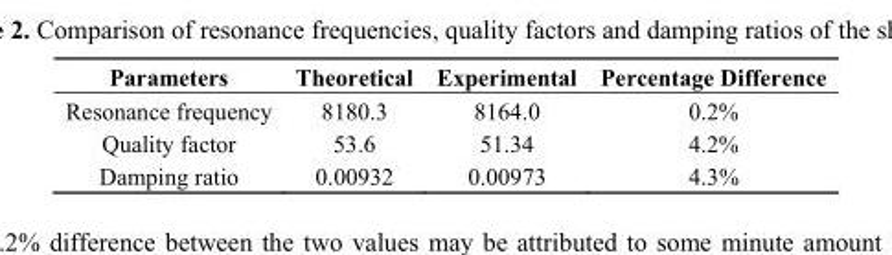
<table><thead><tr><td>Parameters</td><td>Theoretical</td><td>Experimental</td><td>Percentage Difference</td></tr></thead><tbody><tr><td>Resonance frequency</td><td>8180.3</td><td>8164.0</td><td>0.2%</td></tr><tr><td>Quality factor</td><td>53.6</td><td>51.34</td><td>4.2%</td></tr><tr><td>Damping ratio</td><td>0.00932</td><td>0.00973</td><td>4.3%</td></tr></tbody></table>